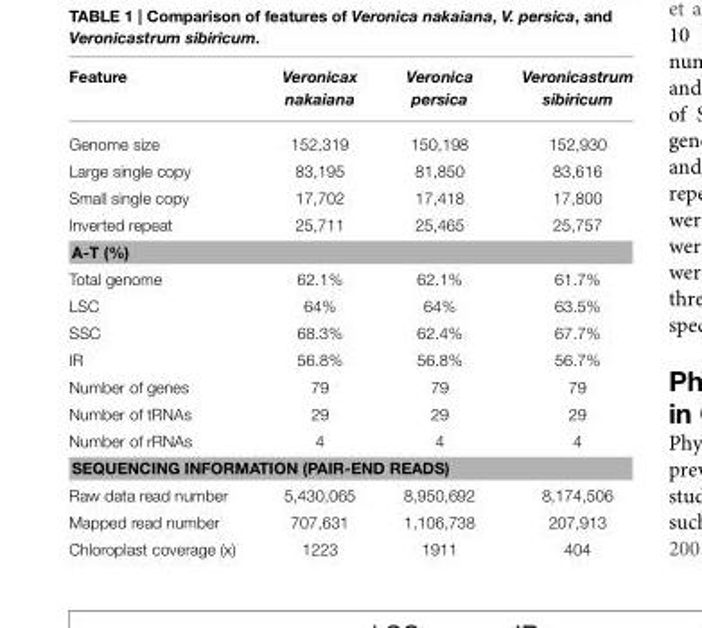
<table><thead><tr><td>Feature</td><td>Veronicax nakaiana</td><td>Veronica persica</td><td>Veronicastrum sibiricum</td></tr></thead><tbody><tr><td>Genome size</td><td>152,319</td><td>150,198</td><td>152,930</td></tr><tr><td>Large single copy</td><td>83,195</td><td>81,850</td><td>83,616</td></tr><tr><td>Small single copy</td><td>17,702</td><td>17,418</td><td>17,800</td></tr><tr><td>Inverted repeat</td><td>25,711</td><td>25,465</td><td>25,757</td></tr><tr><td colspan="4">A-T (%)</td></tr><tr><td>Total genome</td><td>62.1%</td><td>62.1%</td><td>61.7%</td></tr><tr><td>LSC</td><td>64%</td><td>64%</td><td>63.5%</td></tr><tr><td>SSC</td><td>68.3%</td><td>62.4%</td><td>67.7%</td></tr><tr><td>IR</td><td>56.8%</td><td>56.8%</td><td>56.7%</td></tr><tr><td>Number of genes</td><td>79</td><td>79</td><td>79</td></tr><tr><td>Number of tRNAs</td><td>29</td><td>29</td><td>29</td></tr><tr><td>Number of rRNAs</td><td>4</td><td>4</td><td>4</td></tr><tr><td colspan="4">SEQUENCING INFORMATION (PAIR-END READS)</td></tr><tr><td>Raw data read number</td><td>5,430,065</td><td>8,950,692</td><td>8,174,506</td></tr><tr><td>Mapped read number</td><td>707,631</td><td>1,106,738</td><td>207,913</td></tr><tr><td>Chloroplast coverage (x)</td><td>1223</td><td>1911</td><td>404</td></tr></tbody></table>